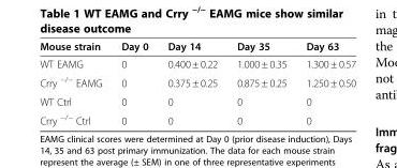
<table><thead><tr><td>Mouse strain</td><td>Day 0</td><td>Day 14</td><td>Day 35</td><td>Day 63</td></tr></thead><tbody><tr><td>WT EAMG</td><td>0</td><td>0.400 ± 0.22</td><td>1.000 ± 0.35</td><td>1.300 ± 0.57</td></tr><tr><td>Crry <sup>−/−</sup> EAMG</td><td>0</td><td>0.375 ± 0.25</td><td>0.875 ± 0.25</td><td>1.250 ± 0.50</td></tr><tr><td>WT Ctrl</td><td>0</td><td>0</td><td>0</td><td>0</td></tr><tr><td>Crry <sup>−/−</sup> Ctrl</td><td>0</td><td>0</td><td>0</td><td>0</td></tr></tbody></table>